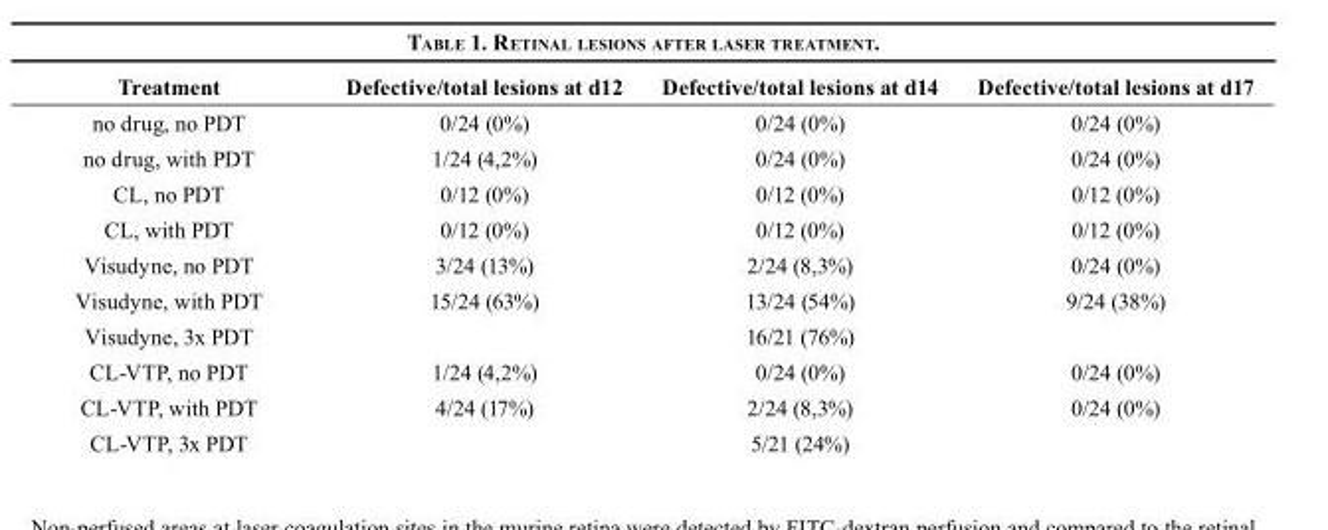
<table><thead><tr><td>Treatment</td><td>Defective/total lesions at d12</td><td>Defective/total lesions at d14</td><td>Defective/total lesions at d17</td></tr></thead><tbody><tr><td>no drug, no PDT</td><td>0/24 (0%)</td><td>0/24 (0%)</td><td>0/24 (0%)</td></tr><tr><td>no drug, with PDT</td><td>1/24 (4,2%)</td><td>0/24 (0%)</td><td>0/24 (0%)</td></tr><tr><td>CL, no PDT</td><td>0/12 (0%)</td><td>0/12 (0%)</td><td>0/12 (0%)</td></tr><tr><td>CL, with PDT</td><td>0/12 (0%)</td><td>0/12 (0%)</td><td>0/12 (0%)</td></tr><tr><td>Visudyne, no PDT</td><td>3/24 (13%)</td><td>2/24 (8,3%)</td><td>0/24 (0%)</td></tr><tr><td>Visudyne, with PDT</td><td>15/24 (63%)</td><td>13/24 (54%)</td><td>9/24 (38%)</td></tr><tr><td>Visudyne, 3x PDT</td><td></td><td>16/21 (76%)</td><td></td></tr><tr><td>CL-VTP, no PDT</td><td>1/24 (4,2%)</td><td>0/24 (0%)</td><td>0/24 (0%)</td></tr><tr><td>CL-VTP, with PDT</td><td>4/24 (17%)</td><td>2/24 (8,3%)</td><td>0/24 (0%)</td></tr><tr><td>CL-VTP, 3x PDT</td><td></td><td>5/21 (24%)</td><td></td></tr></tbody></table>